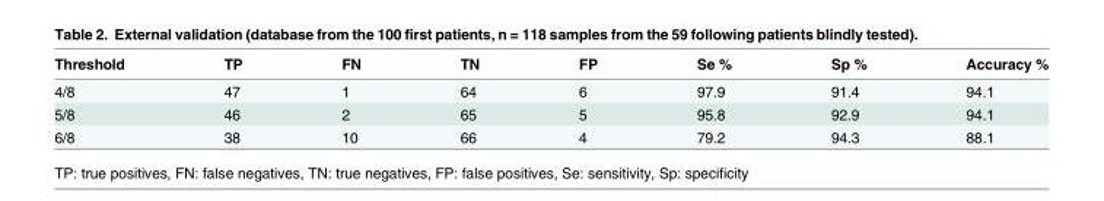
<table><thead><tr><td>Threshold</td><td>TP</td><td>FN</td><td>TN</td><td>FP</td><td>Se %</td><td>Sp %</td><td>Accuracy %</td></tr></thead><tbody><tr><td>4/8</td><td>47</td><td>1</td><td>64</td><td>6</td><td>97.9</td><td>91.4</td><td>94.1</td></tr><tr><td>5/8</td><td>46</td><td>2</td><td>65</td><td>5</td><td>95.8</td><td>92.9</td><td>94.1</td></tr><tr><td>6/8</td><td>38</td><td>10</td><td>66</td><td>4</td><td>79.2</td><td>94.3</td><td>88.1</td></tr></tbody></table>